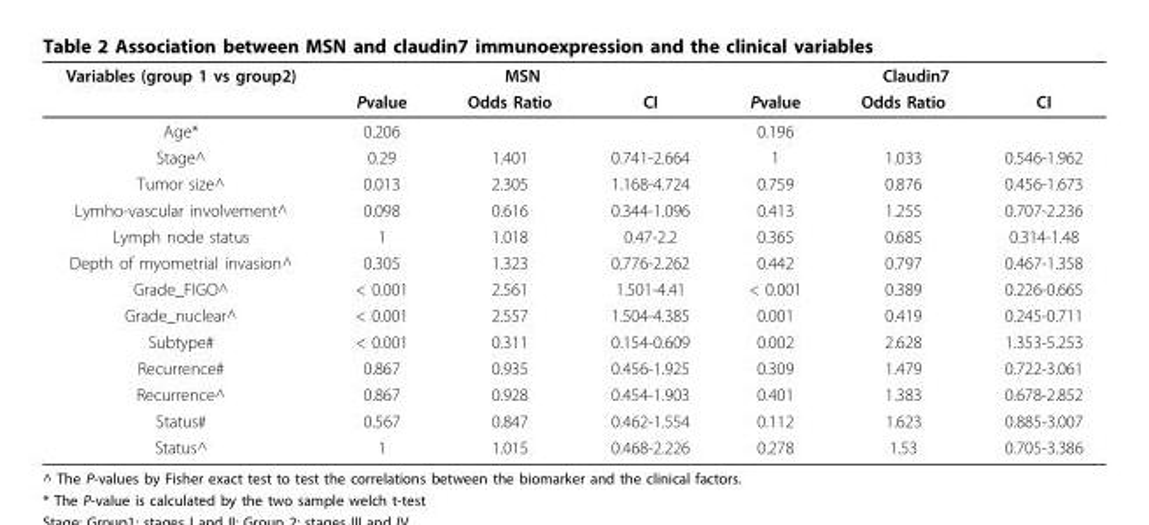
<table><thead><tr><td rowspan="2">Variables (group 1 vs group2)</td><td colspan="3">MSN</td><td colspan="3">Claudin7</td></tr><tr><td>Pvalue</td><td>Odds Ratio</td><td>CI</td><td>Pvalue</td><td>Odds Ratio</td><td>CI</td></tr></thead><tbody><tr><td>Age*</td><td>0.206</td><td></td><td></td><td>0.196</td><td></td><td></td></tr><tr><td>Stage^</td><td>0.29</td><td>1.401</td><td>0.741-2.664</td><td>1</td><td>1.033</td><td>0.546-1.962</td></tr><tr><td>Tumor size^</td><td>0.013</td><td>2.305</td><td>1.168-4.724</td><td>0.759</td><td>0.876</td><td>0.456-1.673</td></tr><tr><td>Lymho-vascular involvement^</td><td>0.098</td><td>0.616</td><td>0.344-1.096</td><td>0.413</td><td>1.255</td><td>0.707-2.236</td></tr><tr><td>Lymph node status</td><td>1</td><td>1.018</td><td>0.47-2.2</td><td>0.365</td><td>0.685</td><td>0.314-1.48</td></tr><tr><td>Depth of myometrial invasion^</td><td>0.305</td><td>1.323</td><td>0.776-2.262</td><td>0.442</td><td>0.797</td><td>0.467-1.358</td></tr><tr><td>Grade_FIGO^</td><td>&lt; 0.001</td><td>2.561</td><td>1.501-4.41</td><td>&lt; 0.001</td><td>0.389</td><td>0.226-0.665</td></tr><tr><td>Grade_nuclear^</td><td>&lt; 0.001</td><td>2.557</td><td>1.504-4.385</td><td>0.001</td><td>0.419</td><td>0.245-0.711</td></tr><tr><td>Subtype#</td><td>&lt; 0.001</td><td>0.311</td><td>0.154-0.609</td><td>0.002</td><td>2.628</td><td>1.353-5.253</td></tr><tr><td>Recurrence#</td><td>0.867</td><td>0.935</td><td>0.456-1.925</td><td>0.309</td><td>1.479</td><td>0.722-3.061</td></tr><tr><td>Recurrence^</td><td>0.867</td><td>0.928</td><td>0.454-1.903</td><td>0.401</td><td>1.383</td><td>0.678-2.852</td></tr><tr><td>Status#</td><td>0.567</td><td>0.847</td><td>0.462-1.554</td><td>0.112</td><td>1.623</td><td>0.885-3.007</td></tr><tr><td>Status^</td><td>1</td><td>1.015</td><td>0.468-2.226</td><td>0.278</td><td>1.53</td><td>0.705-3.386</td></tr></tbody></table>